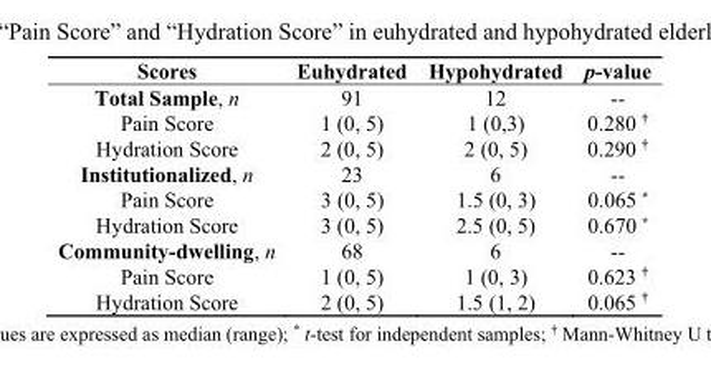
<table><thead><tr><td>Scores</td><td>Euhydrated</td><td>Hypohydrated</td><td>p-value</td></tr></thead><tbody><tr><td>Total Sample, n</td><td>91</td><td>12</td><td>--</td></tr><tr><td>Pain Score</td><td>1 (0, 5)</td><td>1 (0,3)</td><td>0.280 <sup>†</sup></td></tr><tr><td>Hydration Score</td><td>2 (0, 5)</td><td>2 (0, 5)</td><td>0.290 <sup>†</sup></td></tr><tr><td>Institutionalized, n</td><td>23</td><td>6</td><td>--</td></tr><tr><td>Pain Score</td><td>3 (0, 5)</td><td>1.5 (0, 3)</td><td>0.065 *</td></tr><tr><td>Hydration Score</td><td>3 (0, 5)</td><td>2.5 (0, 5)</td><td>0.670 *</td></tr><tr><td>Community-dwelling, n</td><td>68</td><td>6</td><td>--</td></tr><tr><td>Pain Score</td><td>1 (0, 5)</td><td>1 (0, 3)</td><td>0.623 <sup>†</sup></td></tr><tr><td>Hydration Score</td><td>2 (0, 5)</td><td>1.5 (1, 2)</td><td>0.065 <sup>†</sup></td></tr></tbody></table>